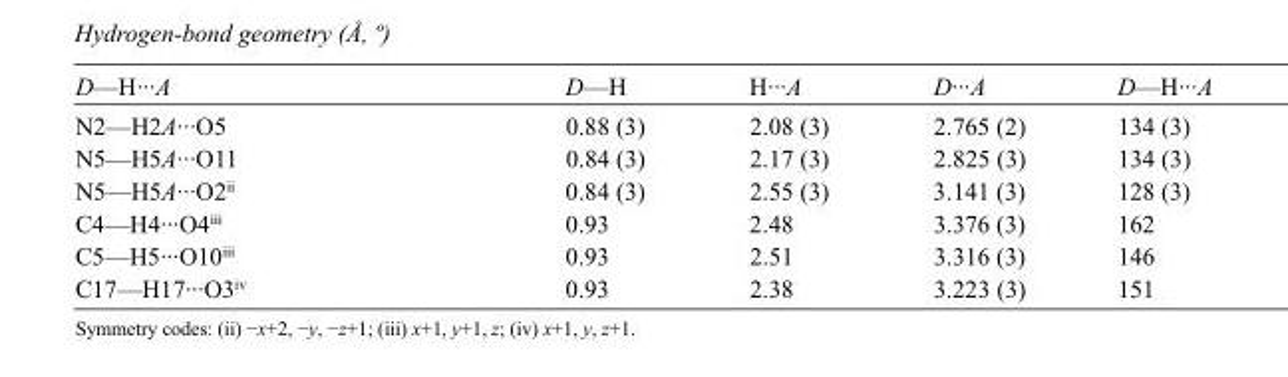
<table><tbody><tr><td>D—H···A</td><td>D—H</td><td>H···A</td><td>D···A</td><td>D—H···A</td></tr><tr><td>N2—H2A···O5</td><td>0.88 (3)</td><td>2.08 (3)</td><td>2.765 (2)</td><td>134 (3)</td></tr><tr><td>N5—H5A···O11</td><td>0.84 (3)</td><td>2.17 (3)</td><td>2.825 (3)</td><td>134 (3)</td></tr><tr><td>N5—H5A···O2<sup>ii</sup></td><td>0.84 (3)</td><td>2.55 (3)</td><td>3.141 (3)</td><td>128 (3)</td></tr><tr><td>C4—H4···O4<sup>iii</sup></td><td>0.93</td><td>2.48</td><td>3.376 (3)</td><td>162</td></tr><tr><td>C5—H5···O10<sup>iii</sup></td><td>0.93</td><td>2.51</td><td>3.316 (3)</td><td>146</td></tr><tr><td>C17—H17···O3<sup>iv</sup></td><td>0.93</td><td>2.38</td><td>3.223 (3)</td><td>151</td></tr></tbody></table>